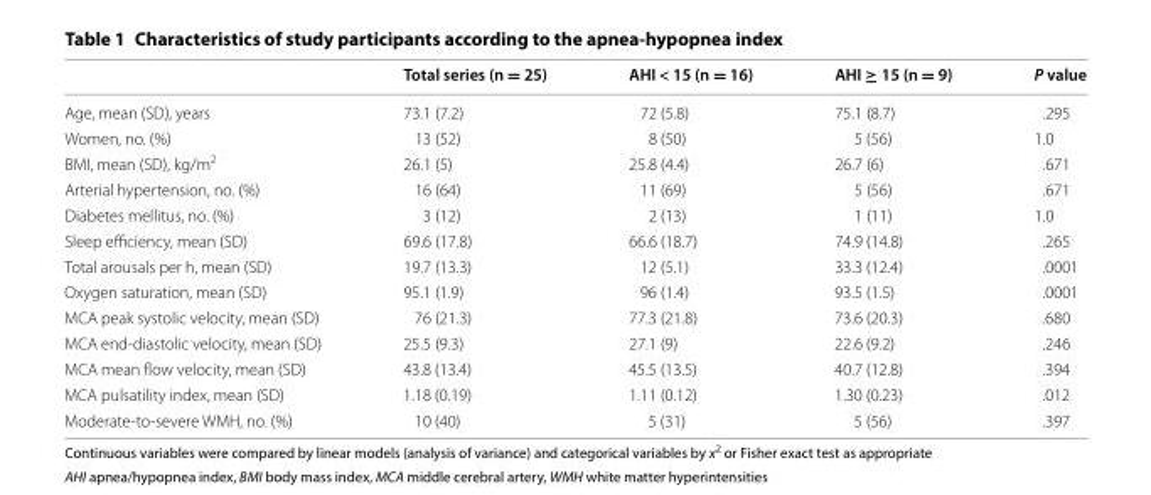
<table><thead><tr><td></td><td>Total series (n = 25)</td><td>AHI &lt; 15 (n = 16)</td><td>AHI ≥ 15 (n = 9)</td><td>P value</td></tr></thead><tbody><tr><td>Age, mean (SD), years</td><td>73.1 (7.2)</td><td>72 (5.8)</td><td>75.1 (8.7)</td><td>.295</td></tr><tr><td>Women, no. (%)</td><td>13 (52)</td><td>8 (50)</td><td>5 (56)</td><td>1.0</td></tr><tr><td>BMI, mean (SD), kg/m<sup>2</sup></td><td>26.1 (5)</td><td>25.8 (4.4)</td><td>26.7 (6)</td><td>.671</td></tr><tr><td>Arterial hypertension, no. (%)</td><td>16 (64)</td><td>11 (69)</td><td>5 (56)</td><td>.671</td></tr><tr><td>Diabetes mellitus, no. (%)</td><td>3 (12)</td><td>2 (13)</td><td>1 (11)</td><td>1.0</td></tr><tr><td>Sleep efficiency, mean (SD)</td><td>69.6 (17.8)</td><td>66.6 (18.7)</td><td>74.9 (14.8)</td><td>.265</td></tr><tr><td>Total arousals per h, mean (SD)</td><td>19.7 (13.3)</td><td>12 (5.1)</td><td>33.3 (12.4)</td><td>.0001</td></tr><tr><td>Oxygen saturation, mean (SD)</td><td>95.1 (1.9)</td><td>96 (1.4)</td><td>93.5 (1.5)</td><td>.0001</td></tr><tr><td>MCA peak systolic velocity, mean (SD)</td><td>76 (21.3)</td><td>77.3 (21.8)</td><td>73.6 (20.3)</td><td>.680</td></tr><tr><td>MCA end-diastolic velocity, mean (SD)</td><td>25.5 (9.3)</td><td>27.1 (9)</td><td>22.6 (9.2)</td><td>.246</td></tr><tr><td>MCA mean flow velocity, mean (SD)</td><td>43.8 (13.4)</td><td>45.5 (13.5)</td><td>40.7 (12.8)</td><td>.394</td></tr><tr><td>MCA pulsatility index, mean (SD)</td><td>1.18 (0.19)</td><td>1.11 (0.12)</td><td>1.30 (0.23)</td><td>.012</td></tr><tr><td>Moderate-to-severe WMH, no. (%)</td><td>10 (40)</td><td>5 (31)</td><td>5 (56)</td><td>.397</td></tr></tbody></table>